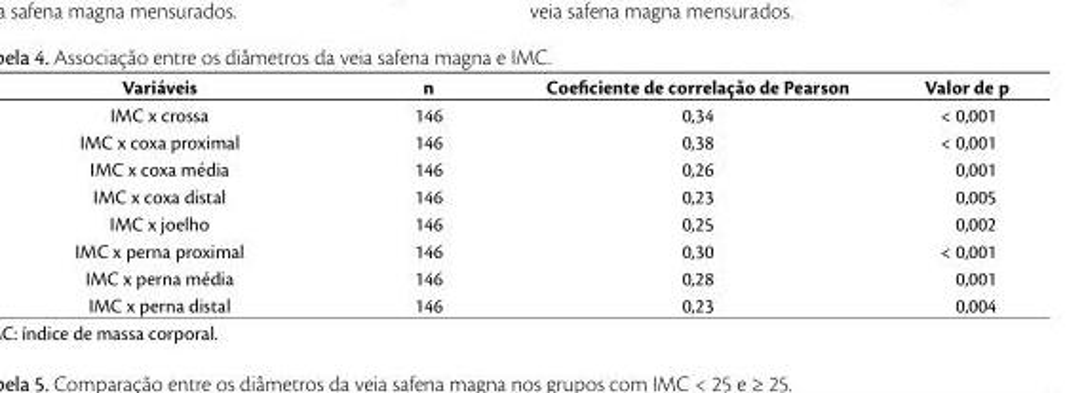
<table><thead><tr><td>Variáveis</td><td>n</td><td>Coeficiente de correlação de Pearson</td><td>Valor de p</td></tr></thead><tbody><tr><td>IMC x crossa</td><td>146</td><td>0,34</td><td>&lt; 0,001</td></tr><tr><td>IMC x coxa proximal</td><td>146</td><td>0,38</td><td>&lt; 0,001</td></tr><tr><td>IMC x coxa média</td><td>146</td><td>0,26</td><td>0,001</td></tr><tr><td>IMC x coxa distal</td><td>146</td><td>0,23</td><td>0,005</td></tr><tr><td>IMC x joelho</td><td>146</td><td>0,25</td><td>0,002</td></tr><tr><td>IMC x perna proximal</td><td>146</td><td>0,30</td><td>&lt; 0,001</td></tr><tr><td>IMC x perna média</td><td>146</td><td>0,28</td><td>0,001</td></tr><tr><td>IMC x perna distal</td><td>146</td><td>0,23</td><td>0,004</td></tr></tbody></table>